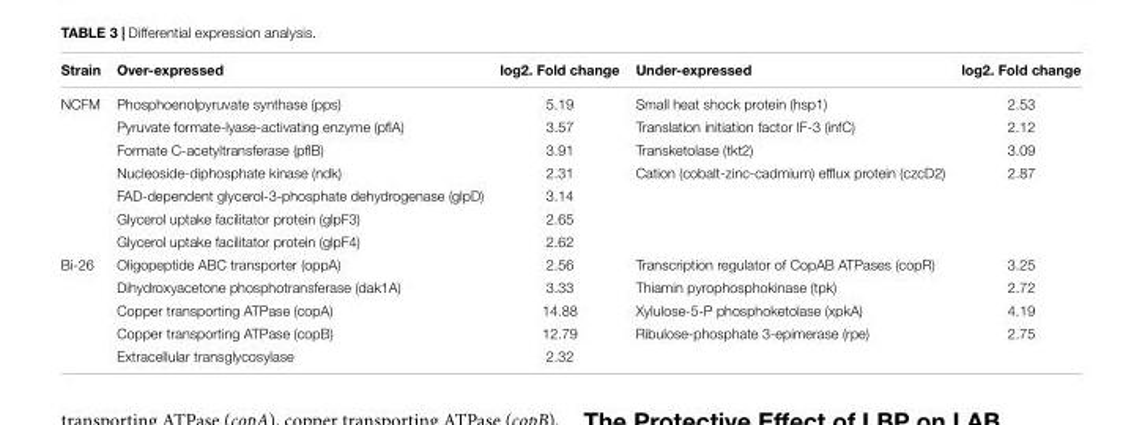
<table><thead><tr><td>Strain</td><td>Over-expressed</td><td>log2. Fold change</td><td>Under-expressed</td><td>log2. Fold change</td></tr></thead><tbody><tr><td rowspan="7">NCFM</td><td>Phosphoenolpyruvate synthase (pps)</td><td>5.19</td><td>Small heat shock protein (hsp1)</td><td>2.53</td></tr><tr><td>Pyruvate formate-lyase-activating enzyme (pflA)</td><td>3.57</td><td>Translation initiation factor IF-3 (infC)</td><td>2.12</td></tr><tr><td>Formate C-acetyltransferase (pflB)</td><td>3.91</td><td>Transketolase (tkt2)</td><td>3.09</td></tr><tr><td>Nucleoside-diphosphate kinase (ndk)</td><td>2.31</td><td>Cation (cobalt-zinc-cadmium) efflux protein (czcD2)</td><td>2.87</td></tr><tr><td>FAD-dependent glycerol-3-phosphate dehydrogenase (glpD)</td><td>3.14</td><td></td><td></td></tr><tr><td>Glycerol uptake facilitator protein (glpF3)</td><td>2.65</td><td></td><td></td></tr><tr><td>Glycerol uptake facilitator protein (glpF4)</td><td>2.62</td><td></td><td></td></tr><tr><td rowspan="5">Bi-26</td><td>Oligopeptide ABC transporter (oppA)</td><td>2.56</td><td>Transcription regulator of CopAB ATPases (copR)</td><td>3.25</td></tr><tr><td>Dihydroxyacetone phosphotransferase (dak1A)</td><td>3.33</td><td>Thiamin pyrophosphokinase (tpk)</td><td>2.72</td></tr><tr><td>Copper transporting ATPase (copA)</td><td>14.88</td><td>Xylulose-5-P phosphoketolase (xpkA)</td><td>4.19</td></tr><tr><td>Copper transporting ATPase (copB)</td><td>12.79</td><td>Ribulose-phosphate 3-epimerase (rpe)</td><td>2.75</td></tr><tr><td>Extracellular transglycosylase</td><td>2.32</td><td></td><td></td></tr></tbody></table>